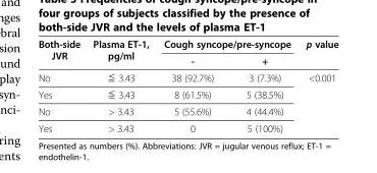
<table><thead><tr><td rowspan="2">Both-side JVR</td><td rowspan="2">Plasma ET-1, pg/ml</td><td colspan="2">Cough syncope/pre-syncope</td><td rowspan="2">p value</td></tr><tr><td>-</td><td>+</td></tr></thead><tbody><tr><td>No</td><td>≦ 3.43</td><td>38 (92.7%)</td><td>3 (7.3%)</td><td rowspan="3">&lt;0.001</td></tr><tr><td>Yes</td><td>≦ 3.43</td><td>8 (61.5%)</td><td>5 (38.5%)</td></tr><tr><td>No</td><td>&gt; 3.43</td><td>5 (55.6%)</td><td>4 (44.4%)</td></tr><tr><td>Yes</td><td>&gt; 3.43</td><td>0</td><td>5 (100%)</td><td></td></tr></tbody></table>